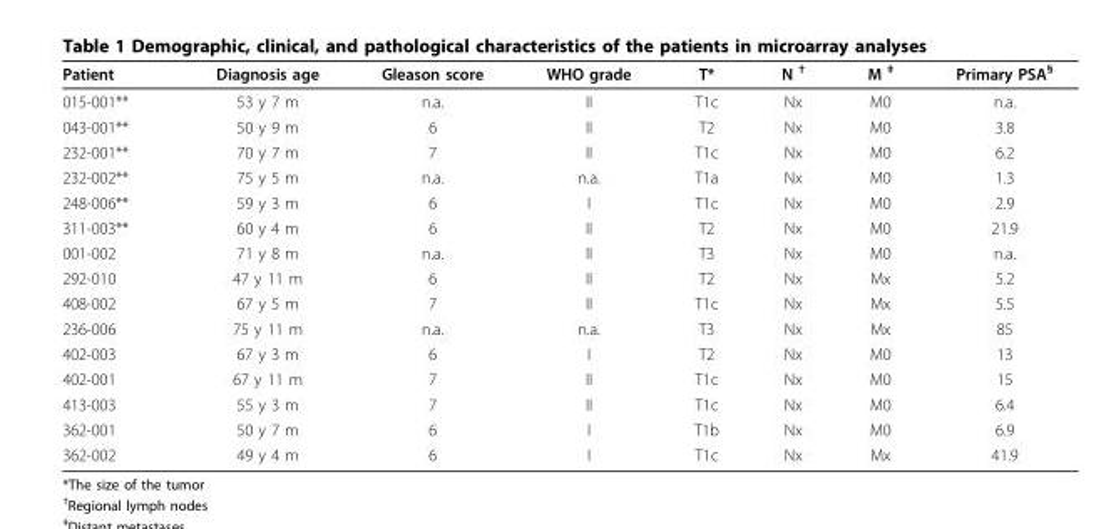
<table><thead><tr><td>Patient</td><td>Diagnosis age</td><td>Gleason score</td><td>WHO grade</td><td>T*</td><td>N <sup>†</sup></td><td>M <sup>‡</sup></td><td>Primary PSA<sup>§</sup></td></tr></thead><tbody><tr><td>015-001**</td><td>53 y 7 m</td><td>n.a.</td><td>II</td><td>T1c</td><td>Nx</td><td>M0</td><td>n.a.</td></tr><tr><td>043-001**</td><td>50 y 9 m</td><td>6</td><td>II</td><td>T2</td><td>Nx</td><td>M0</td><td>3.8</td></tr><tr><td>232-001**</td><td>70 y 7 m</td><td>7</td><td>II</td><td>T1c</td><td>Nx</td><td>M0</td><td>6.2</td></tr><tr><td>232-002**</td><td>75 y 5 m</td><td>n.a.</td><td>n.a.</td><td>T1a</td><td>Nx</td><td>M0</td><td>1.3</td></tr><tr><td>248-006**</td><td>59 y 3 m</td><td>6</td><td>I</td><td>T1c</td><td>Nx</td><td>M0</td><td>2.9</td></tr><tr><td>311-003**</td><td>60 y 4 m</td><td>6</td><td>II</td><td>T2</td><td>Nx</td><td>M0</td><td>21.9</td></tr><tr><td>001-002</td><td>71 y 8 m</td><td>n.a.</td><td>II</td><td>T3</td><td>Nx</td><td>M0</td><td>n.a.</td></tr><tr><td>292-010</td><td>47 y 11 m</td><td>6</td><td>II</td><td>T2</td><td>Nx</td><td>Mx</td><td>5.2</td></tr><tr><td>408-002</td><td>67 y 5 m</td><td>7</td><td>II</td><td>T1c</td><td>Nx</td><td>Mx</td><td>5.5</td></tr><tr><td>236-006</td><td>75 y 11 m</td><td>n.a.</td><td>n.a.</td><td>T3</td><td>Nx</td><td>Mx</td><td>85</td></tr><tr><td>402-003</td><td>67 y 3 m</td><td>6</td><td>I</td><td>T2</td><td>Nx</td><td>M0</td><td>13</td></tr><tr><td>402-001</td><td>67 y 11 m</td><td>7</td><td>II</td><td>T1c</td><td>Nx</td><td>M0</td><td>15</td></tr><tr><td>413-003</td><td>55 y 3 m</td><td>7</td><td>II</td><td>T1c</td><td>Nx</td><td>M0</td><td>6.4</td></tr><tr><td>362-001</td><td>50 y 7 m</td><td>6</td><td>I</td><td>T1b</td><td>Nx</td><td>M0</td><td>6.9</td></tr><tr><td>362-002</td><td>49 y 4 m</td><td>6</td><td>I</td><td>T1c</td><td>Nx</td><td>Mx</td><td>41.9</td></tr></tbody></table>